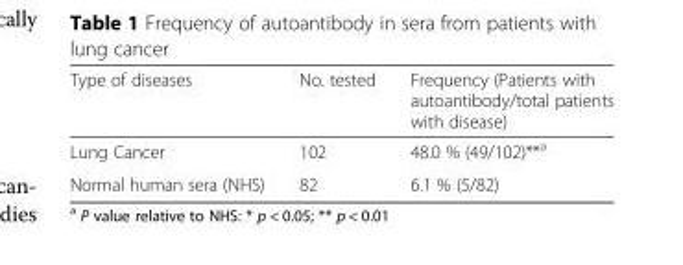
<table><thead><tr><td>Type of diseases</td><td>No. tested</td><td>Frequency (Patients with autoantibody/total patients with disease)</td></tr></thead><tbody><tr><td>Lung Cancer</td><td>102</td><td>48.0 % (49/102)**<sup>a</sup></td></tr><tr><td>Normal human sera (NHS)</td><td>82</td><td>6.1 % (5/82)</td></tr></tbody></table>